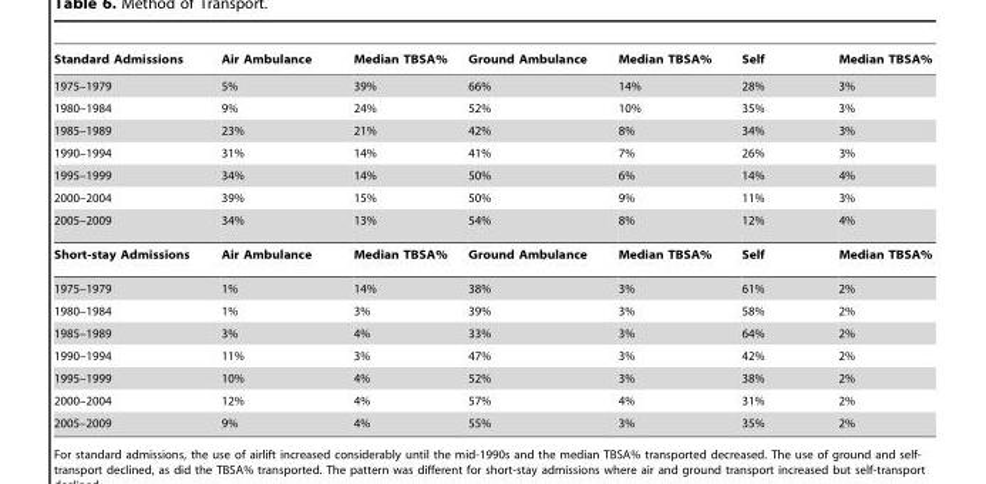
<table><thead><tr><td>Standard Admissions</td><td>Air Ambulance</td><td>Median TBSA%</td><td>Ground Ambulance</td><td>Median TBSA%</td><td>Self</td><td>Median TBSA%</td></tr></thead><tbody><tr><td>1975–1979</td><td>5%</td><td>39%</td><td>66%</td><td>14%</td><td>28%</td><td>3%</td></tr><tr><td>1980–1984</td><td>9%</td><td>24%</td><td>52%</td><td>10%</td><td>35%</td><td>3%</td></tr><tr><td>1985–1989</td><td>23%</td><td>21%</td><td>42%</td><td>8%</td><td>34%</td><td>3%</td></tr><tr><td>1990–1994</td><td>31%</td><td>14%</td><td>41%</td><td>7%</td><td>26%</td><td>3%</td></tr><tr><td>1995–1999</td><td>34%</td><td>14%</td><td>50%</td><td>6%</td><td>14%</td><td>4%</td></tr><tr><td>2000–2004</td><td>39%</td><td>15%</td><td>50%</td><td>9%</td><td>11%</td><td>3%</td></tr><tr><td>2005–2009</td><td>34%</td><td>13%</td><td>54%</td><td>8%</td><td>12%</td><td>4%</td></tr><tr><td>Short-stay Admissions</td><td>Air Ambulance</td><td>Median TBSA%</td><td>Ground Ambulance</td><td>Median TBSA%</td><td>Self</td><td>Median TBSA%</td></tr><tr><td>1975–1979</td><td>1%</td><td>14%</td><td>38%</td><td>3%</td><td>61%</td><td>2%</td></tr><tr><td>1980–1984</td><td>1%</td><td>3%</td><td>39%</td><td>3%</td><td>58%</td><td>2%</td></tr><tr><td>1985–1989</td><td>3%</td><td>4%</td><td>33%</td><td>3%</td><td>64%</td><td>2%</td></tr><tr><td>1990–1994</td><td>11%</td><td>3%</td><td>47%</td><td>3%</td><td>42%</td><td>2%</td></tr><tr><td>1995–1999</td><td>10%</td><td>4%</td><td>52%</td><td>3%</td><td>38%</td><td>2%</td></tr><tr><td>2000–2004</td><td>12%</td><td>4%</td><td>57%</td><td>4%</td><td>31%</td><td>2%</td></tr><tr><td>2005–2009</td><td>9%</td><td>4%</td><td>55%</td><td>3%</td><td>35%</td><td>2%</td></tr></tbody></table>